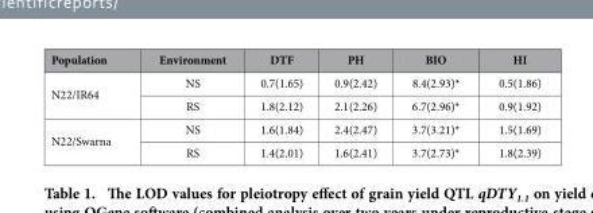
<table><thead><tr><td>Population</td><td>Environment</td><td>DTF</td><td>PH</td><td>BIO</td><td>HI</td></tr></thead><tbody><tr><td rowspan="2">N22/IR64</td><td>NS</td><td>0.7(1.65)</td><td>0.9(2.42)</td><td>8.4(2.93)*</td><td>0.5(1.86)</td></tr><tr><td>RS</td><td>1.8(2.12)</td><td>2.1(2.26)</td><td>6.7(2.96)*</td><td>0.9(1.92)</td></tr><tr><td rowspan="2">N22/Swarna</td><td>NS</td><td>1.6(1.84)</td><td>2.4(2.47)</td><td>3.7(3.21)*</td><td>1.5(1.69)</td></tr><tr><td>RS</td><td>1.4(2.01)</td><td>1.6(2.41)</td><td>3.7(2.73)*</td><td>1.8(2.39)</td></tr></tbody></table>